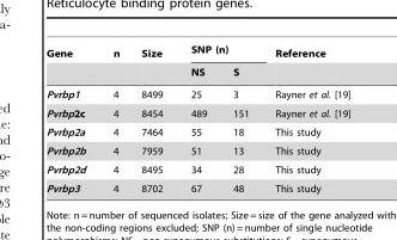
<table><thead><tr><td rowspan="2">Gene</td><td rowspan="2">n</td><td rowspan="2">Size</td><td colspan="2">SNP (n)</td><td rowspan="2">Reference</td></tr><tr><td>NS</td><td>S</td></tr></thead><tbody><tr><td>Pvrbp1</td><td>4</td><td>8499</td><td>25</td><td>3</td><td>Rayner et al. [19]</td></tr><tr><td>Pvrbp2c</td><td>4</td><td>8454</td><td>489</td><td>151</td><td>Rayner et al. [19]</td></tr><tr><td>Pvrbp2a</td><td>4</td><td>7464</td><td>55</td><td>18</td><td>This study</td></tr><tr><td>Pvrbp2b</td><td>4</td><td>7959</td><td>51</td><td>13</td><td>This study</td></tr><tr><td>Pvrbp2d</td><td>4</td><td>8495</td><td>34</td><td>28</td><td>This study</td></tr><tr><td>Pvrbp3</td><td>4</td><td>8702</td><td>67</td><td>48</td><td>This study</td></tr></tbody></table>